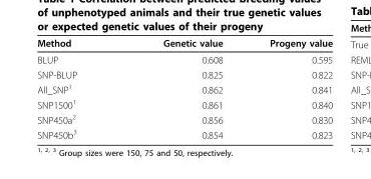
<table><thead><tr><td>Method</td><td>Genetic value</td><td>Progeny value</td></tr></thead><tbody><tr><td>BLUP</td><td>0.608</td><td>0.595</td></tr><tr><td>SNP-BLUP</td><td>0.825</td><td>0.822</td></tr><tr><td>All_SNP<sup>1</sup></td><td>0.862</td><td>0.841</td></tr><tr><td>SNP1500<sup>1</sup></td><td>0.861</td><td>0.840</td></tr><tr><td>SNP450a<sup>2</sup></td><td>0.856</td><td>0.830</td></tr><tr><td>SNP450b<sup>3</sup></td><td>0.854</td><td>0.823</td></tr></tbody></table>